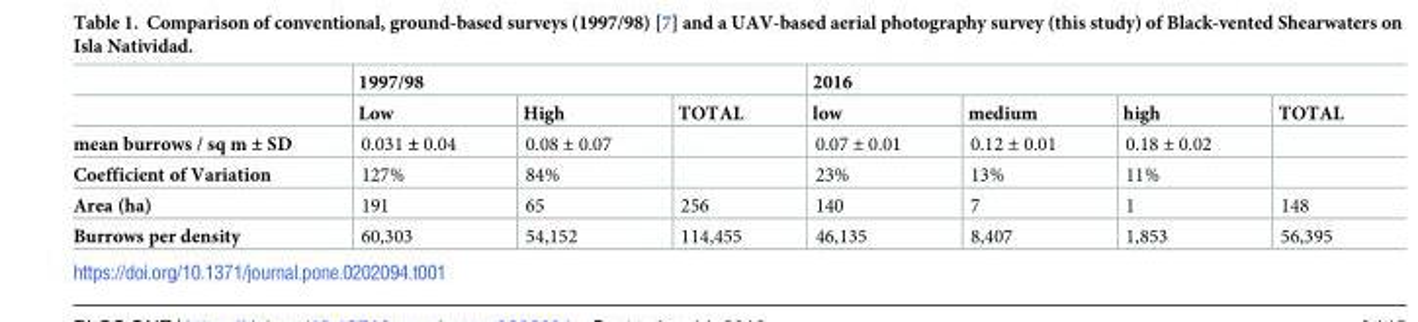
<table><thead><tr><td rowspan="2"></td><td colspan="3">1997/98</td><td colspan="4">2016</td></tr><tr><td>Low</td><td>High</td><td>TOTAL</td><td>low</td><td>medium</td><td>high</td><td>TOTAL</td></tr></thead><tbody><tr><td>mean burrows / sq m ± SD</td><td>0.031 ± 0.04</td><td>0.08 ± 0.07</td><td></td><td>0.07 ± 0.01</td><td>0.12 ± 0.01</td><td>0.18 ± 0.02</td><td></td></tr><tr><td>Coefficient of Variation</td><td>127%</td><td>84%</td><td></td><td>23%</td><td>13%</td><td>11%</td><td></td></tr><tr><td>Area (ha)</td><td>191</td><td>65</td><td>256</td><td>140</td><td>7</td><td>1</td><td>148</td></tr><tr><td>Burrows per density</td><td>60,303</td><td>54,152</td><td>114,455</td><td>46,135</td><td>8,407</td><td>1,853</td><td>56,395</td></tr></tbody></table>